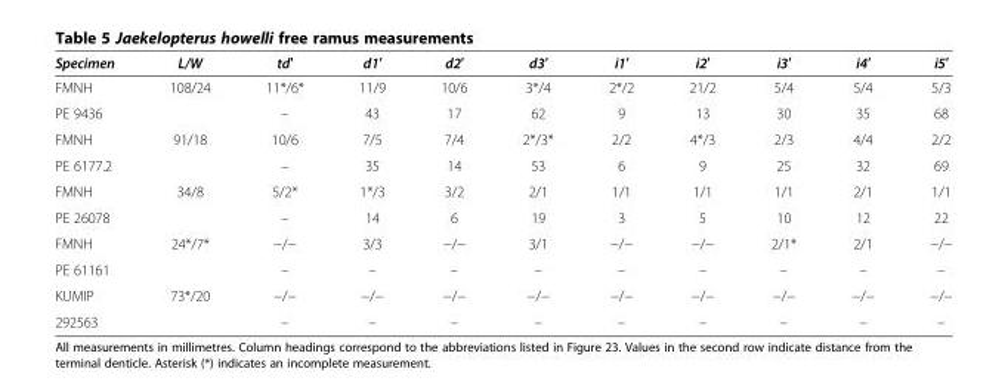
<table><thead><tr><td>Specimen</td><td>L/W</td><td>td′</td><td>d1′</td><td>d2′</td><td>d3′</td><td>i1′</td><td>i2′</td><td>i3′</td><td>i4′</td><td>i5′</td></tr></thead><tbody><tr><td>FMNH</td><td>108/24</td><td>11*/6*</td><td>11/9</td><td>10/6</td><td>3*/4</td><td>2*/2</td><td>21/2</td><td>5/4</td><td>5/4</td><td>5/3</td></tr><tr><td>PE 9436</td><td></td><td>–</td><td>43</td><td>17</td><td>62</td><td>9</td><td>13</td><td>30</td><td>35</td><td>68</td></tr><tr><td>FMNH</td><td>91/18</td><td>10/6</td><td>7/5</td><td>7/4</td><td>2*/3*</td><td>2/2</td><td>4*/3</td><td>2/3</td><td>4/4</td><td>2/2</td></tr><tr><td>PE 6177.2</td><td></td><td>–</td><td>35</td><td>14</td><td>53</td><td>6</td><td>9</td><td>25</td><td>32</td><td>69</td></tr><tr><td>FMNH</td><td>34/8</td><td>5/2*</td><td>1*/3</td><td>3/2</td><td>2/1</td><td>1/1</td><td>1/1</td><td>1/1</td><td>2/1</td><td>1/1</td></tr><tr><td>PE 26078</td><td></td><td>–</td><td>14</td><td>6</td><td>19</td><td>3</td><td>5</td><td>10</td><td>12</td><td>22</td></tr><tr><td>FMNH</td><td>24*/7*</td><td>−/−</td><td>3/3</td><td>−/−</td><td>3/1</td><td>−/−</td><td>−/−</td><td>2/1*</td><td>2/1</td><td>−/−</td></tr><tr><td>PE 61161</td><td></td><td>–</td><td>–</td><td>–</td><td>–</td><td>–</td><td>–</td><td>–</td><td>–</td><td>–</td></tr><tr><td>KUMIP</td><td>73*/20</td><td>−/−</td><td>−/−</td><td>−/−</td><td>−/−</td><td>−/−</td><td>−/−</td><td>−/−</td><td>−/−</td><td>−/−</td></tr><tr><td>292563</td><td></td><td>–</td><td>–</td><td>–</td><td>–</td><td>–</td><td>–</td><td>–</td><td>–</td><td>–</td></tr></tbody></table>